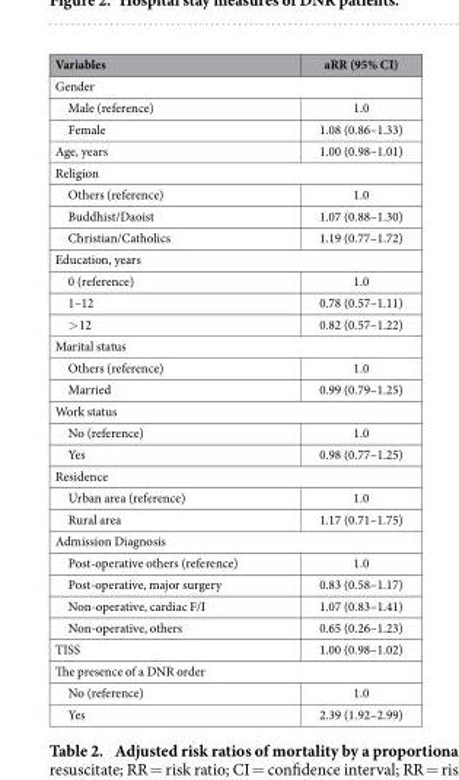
<table><thead><tr><td>Variables</td><td>aRR (95% CI)</td></tr></thead><tbody><tr><td colspan="2">Gender</td></tr><tr><td>Male (reference)</td><td>1.0</td></tr><tr><td>Female</td><td>1.08 (0.86–1.33)</td></tr><tr><td>Age, years</td><td>1.00 (0.98–1.01)</td></tr><tr><td colspan="2">Religion</td></tr><tr><td>Others (reference)</td><td>1.0</td></tr><tr><td>Buddhist/Daoist</td><td>1.07 (0.88–1.30)</td></tr><tr><td>Christian/Catholics</td><td>1.19 (0.77–1.72)</td></tr><tr><td colspan="2">Education, years</td></tr><tr><td>0 (reference)</td><td>1.0</td></tr><tr><td>1–12</td><td>0.78 (0.57–1.11)</td></tr><tr><td>&gt; 12</td><td>0.82 (0.57–1.22)</td></tr><tr><td colspan="2">Marital status</td></tr><tr><td>Others (reference)</td><td>1.0</td></tr><tr><td>Married</td><td>0.99 (0.79–1.25)</td></tr><tr><td colspan="2">Work status</td></tr><tr><td>No (reference)</td><td>1.0</td></tr><tr><td>Yes</td><td>0.98 (0.77–1.25)</td></tr><tr><td colspan="2">Residence</td></tr><tr><td>Urban area (reference)</td><td>1.0</td></tr><tr><td>Rural area</td><td>1.17 (0.71–1.75)</td></tr><tr><td colspan="2">Admission Diagnosis</td></tr><tr><td>Post-operative others (reference)</td><td>1.0</td></tr><tr><td>Post-operative, major surgery</td><td>0.83 (0.58–1.17)</td></tr><tr><td>Non-operative, cardiac F/I</td><td>1.07 (0.83–1.41)</td></tr><tr><td>Non-operative, others</td><td>0.65 (0.26–1.23)</td></tr><tr><td>TISS</td><td>1.00 (0.98–1.02)</td></tr><tr><td colspan="2">The presence of a DNR order</td></tr><tr><td>No (reference)</td><td>1.0</td></tr><tr><td>Yes</td><td>2.39 (1.92–2.99)</td></tr></tbody></table>